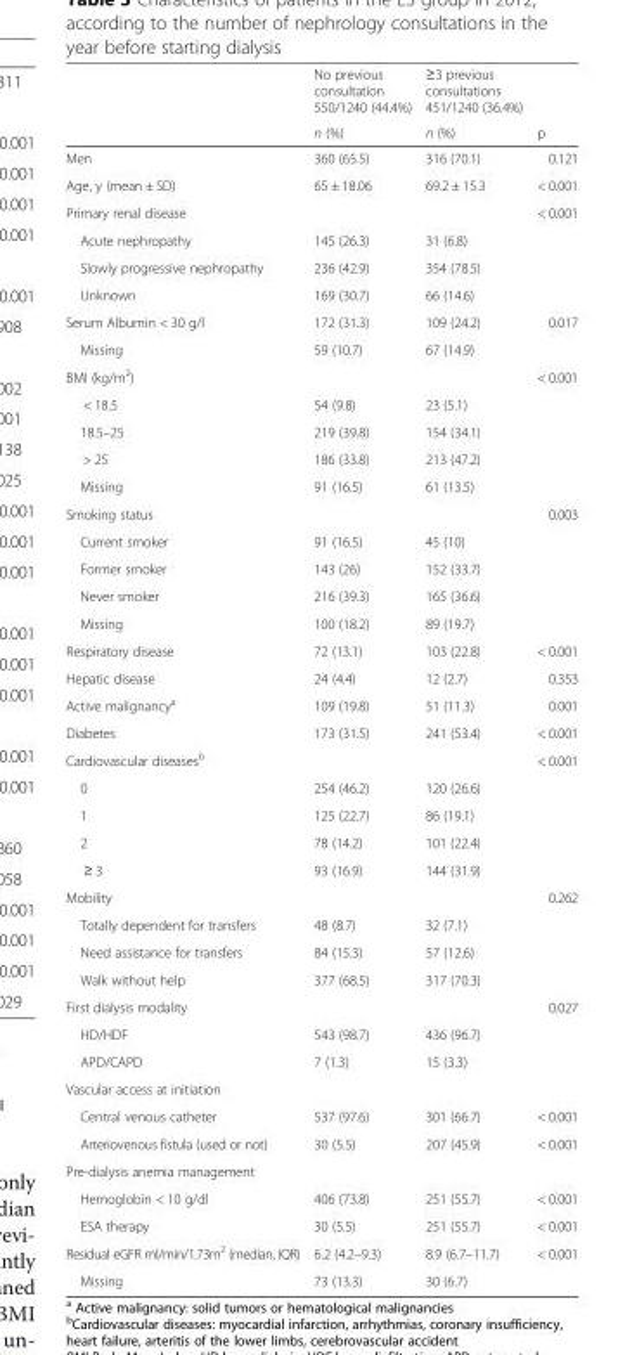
<table><thead><tr><td rowspan="2"></td><td rowspan="2">No previous consultation 550/1240 (44.4%) n (%)</td><td rowspan="2">≥3 previous consultations 451/1240 (36.4%) n (%)</td><td rowspan="2">p</td></tr><tr></tr></thead><tbody><tr><td>Men</td><td>360 (65.5)</td><td>316 (70.1)</td><td>0.121</td></tr><tr><td>Age, y (mean ± SD)</td><td>65 ± 18.06</td><td>69.2 ± 15.3</td><td>&lt; 0.001</td></tr><tr><td colspan="3">Primary renal disease</td><td>&lt; 0.001</td></tr><tr><td>Acute nephropathy</td><td>145 (26.3)</td><td>31 (6.8)</td><td></td></tr><tr><td>Slowly progressive nephropathy</td><td>236 (42.9)</td><td>354 (78.5)</td><td></td></tr><tr><td>Unknown</td><td>169 (30.7)</td><td>66 (14.6)</td><td></td></tr><tr><td>Serum Albumin &lt; 30 g/l</td><td>172 (31.3)</td><td>109 (24.2)</td><td>0.017</td></tr><tr><td>Missing</td><td>59 (10.7)</td><td>67 (14.9)</td><td></td></tr><tr><td colspan="3">BMI (kg/m<sup>2</sup>)</td><td>&lt; 0.001</td></tr><tr><td>&lt; 18.5</td><td>54 (9.8)</td><td>23 (5.1)</td><td></td></tr><tr><td>18.5–25</td><td>219 (39.8)</td><td>154 (34.1)</td><td></td></tr><tr><td>&gt; 25</td><td>186 (33.8)</td><td>213 (47.2)</td><td></td></tr><tr><td>Missing</td><td>91 (16.5)</td><td>61 (13.5)</td><td></td></tr><tr><td colspan="3">Smoking status</td><td>0.003</td></tr><tr><td>Current smoker</td><td>91 (16.5)</td><td>45 (10)</td><td></td></tr><tr><td>Former smoker</td><td>143 (26)</td><td>152 (33.7)</td><td></td></tr><tr><td>Never smoker</td><td>216 (39.3)</td><td>165 (36.6)</td><td></td></tr><tr><td>Missing</td><td>100 (18.2)</td><td>89 (19.7)</td><td></td></tr><tr><td>Respiratory disease</td><td>72 (13.1)</td><td>103 (22.8)</td><td>&lt; 0.001</td></tr><tr><td>Hepatic disease</td><td>24 (4.4)</td><td>12 (2.7)</td><td>0.353</td></tr><tr><td>Active malignancy<sup>a</sup></td><td>109 (19.8)</td><td>51 (11.3)</td><td>0.001</td></tr><tr><td>Diabetes</td><td>173 (31.5)</td><td>241 (53.4)</td><td>&lt; 0.001</td></tr><tr><td colspan="3">Cardiovascular diseases<sup>b</sup></td><td>&lt; 0.001</td></tr><tr><td>0</td><td>254 (46.2)</td><td>120 (26.6)</td><td></td></tr><tr><td>1</td><td>125 (22.7)</td><td>86 (19.1)</td><td></td></tr><tr><td>2</td><td>78 (14.2)</td><td>101 (22.4)</td><td></td></tr><tr><td>≥ 3</td><td>93 (16.9)</td><td>144 (31.9)</td><td></td></tr><tr><td colspan="3">Mobility</td><td>0.262</td></tr><tr><td>Totally dependent for transfers</td><td>48 (8.7)</td><td>32 (7.1)</td><td></td></tr><tr><td>Need assistance for transfers</td><td>84 (15.3)</td><td>57 (12.6)</td><td></td></tr><tr><td>Walk without help</td><td>377 (68.5)</td><td>317 (70.3)</td><td></td></tr><tr><td colspan="3">First dialysis modality</td><td>0.027</td></tr><tr><td>HD/HDF</td><td>543 (98.7)</td><td>436 (96.7)</td><td></td></tr><tr><td>APD/CAPD</td><td>7 (1.3)</td><td>15 (3.3)</td><td></td></tr><tr><td colspan="4">Vascular access at initiation</td></tr><tr><td>Central venous catheter</td><td>537 (97.6)</td><td>301 (66.7)</td><td>&lt; 0.001</td></tr><tr><td>Arteriovenous fistula (used or not)</td><td>30 (5.5)</td><td>207 (45.9)</td><td>&lt; 0.001</td></tr><tr><td colspan="4">Pre-dialysis anemia management</td></tr><tr><td>Hemoglobin &lt; 10 g/dl</td><td>406 (73.8)</td><td>251 (55.7)</td><td>&lt; 0.001</td></tr><tr><td>ESA therapy</td><td>30 (5.5)</td><td>251 (55.7)</td><td>&lt; 0.001</td></tr><tr><td>Residual eGFR ml/min/1.73m<sup>2</sup> (median, IQR)</td><td>6.2 (4.2–9.3)</td><td>8.9 (6.7–11.7)</td><td>&lt; 0.001</td></tr><tr><td>Missing</td><td>73 (13.3)</td><td>30 (6.7)</td><td></td></tr></tbody></table>